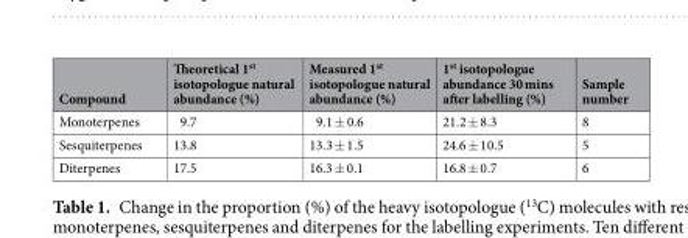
<table><thead><tr><td>Compound</td><td>Theoretical 1<sup>st</sup> isotopologue natural abundance (%)</td><td>Measured 1<sup>st</sup> isotopologue natural abundance (%)</td><td>1<sup>st</sup> isotopologue abundance 30 mins after labelling (%)</td><td>Sample number</td></tr></thead><tbody><tr><td>Monoterpenes</td><td>9.7</td><td>9.1 ± 0.6</td><td>21.2 ± 8.3</td><td>8</td></tr><tr><td>Sesquiterpenes</td><td>13.8</td><td>13.3 ± 1.5</td><td>24.6 ± 10.5</td><td>5</td></tr><tr><td>Diterpenes</td><td>17.5</td><td>16.3 ± 0.1</td><td>16.8 ± 0.7</td><td>6</td></tr></tbody></table>